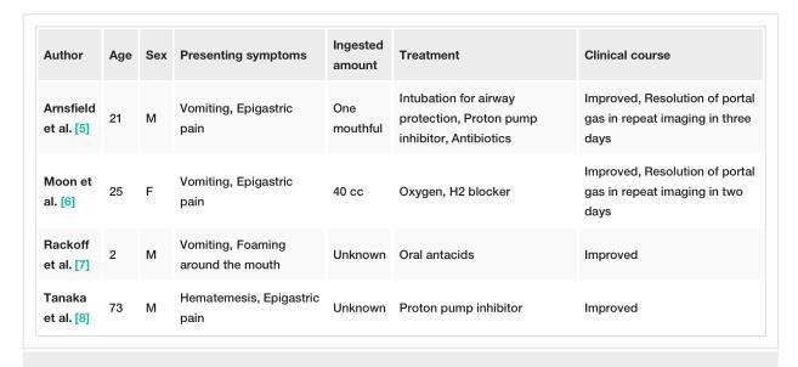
<table><tbody><tr><td>Author</td><td>Age</td><td>Sex</td><td>Presenting symptoms</td><td>Ingested amount</td><td>Treatment</td><td>Clinical course</td></tr><tr><td>Arnsfield et al. [5]</td><td>21</td><td>M</td><td>Vomiting, Epigastric pain</td><td>One mouthful</td><td>Intubation for airway protection, Proton pump inhibitor, Antibiotics</td><td>Improved, Resolution of portal gas in repeat imaging in three days</td></tr><tr><td>Moon et al. [6]</td><td>25</td><td>F</td><td>Vomiting, Epigastric pain</td><td>40 cc</td><td>Oxygen, H2 blocker</td><td>Improved, Resolution of portal gas in repeat imaging in two days</td></tr><tr><td>Rackoff et al. [7]</td><td>2</td><td>M</td><td>Vomiting, Foaming around the mouth</td><td>Unknown</td><td>Oral antacids</td><td>Improved</td></tr><tr><td>Tanaka et al. [8]</td><td>73</td><td>M</td><td>Hematemesis, Epigastric pain</td><td>Unknown</td><td>Proton pump inhibitor</td><td>Improved</td></tr></tbody></table>